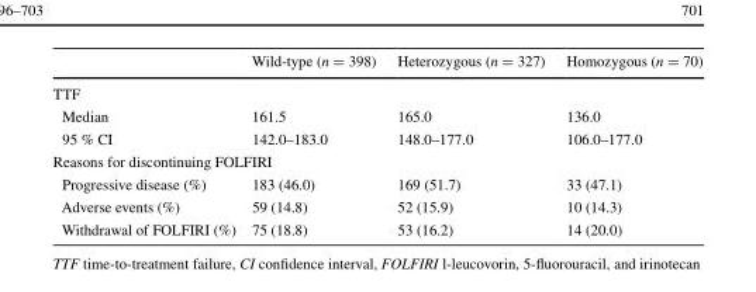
<table><thead><tr><td></td><td>Wild-type (n = 398)</td><td>Heterozygous (n = 327)</td><td>Homozygous (n = 70)</td></tr></thead><tbody><tr><td colspan="4">TTF</td></tr><tr><td>Median</td><td>161.5</td><td>165.0</td><td>136.0</td></tr><tr><td>95 % CI</td><td>142.0–183.0</td><td>148.0–177.0</td><td>106.0–177.0</td></tr><tr><td colspan="4">Reasons for discontinuing FOLFIRI</td></tr><tr><td>Progressive disease (%)</td><td>183 (46.0)</td><td>169 (51.7)</td><td>33 (47.1)</td></tr><tr><td>Adverse events (%)</td><td>59 (14.8)</td><td>52 (15.9)</td><td>10 (14.3)</td></tr><tr><td>Withdrawal of FOLFIRI (%)</td><td>75 (18.8)</td><td>53 (16.2)</td><td>14 (20.0)</td></tr></tbody></table>